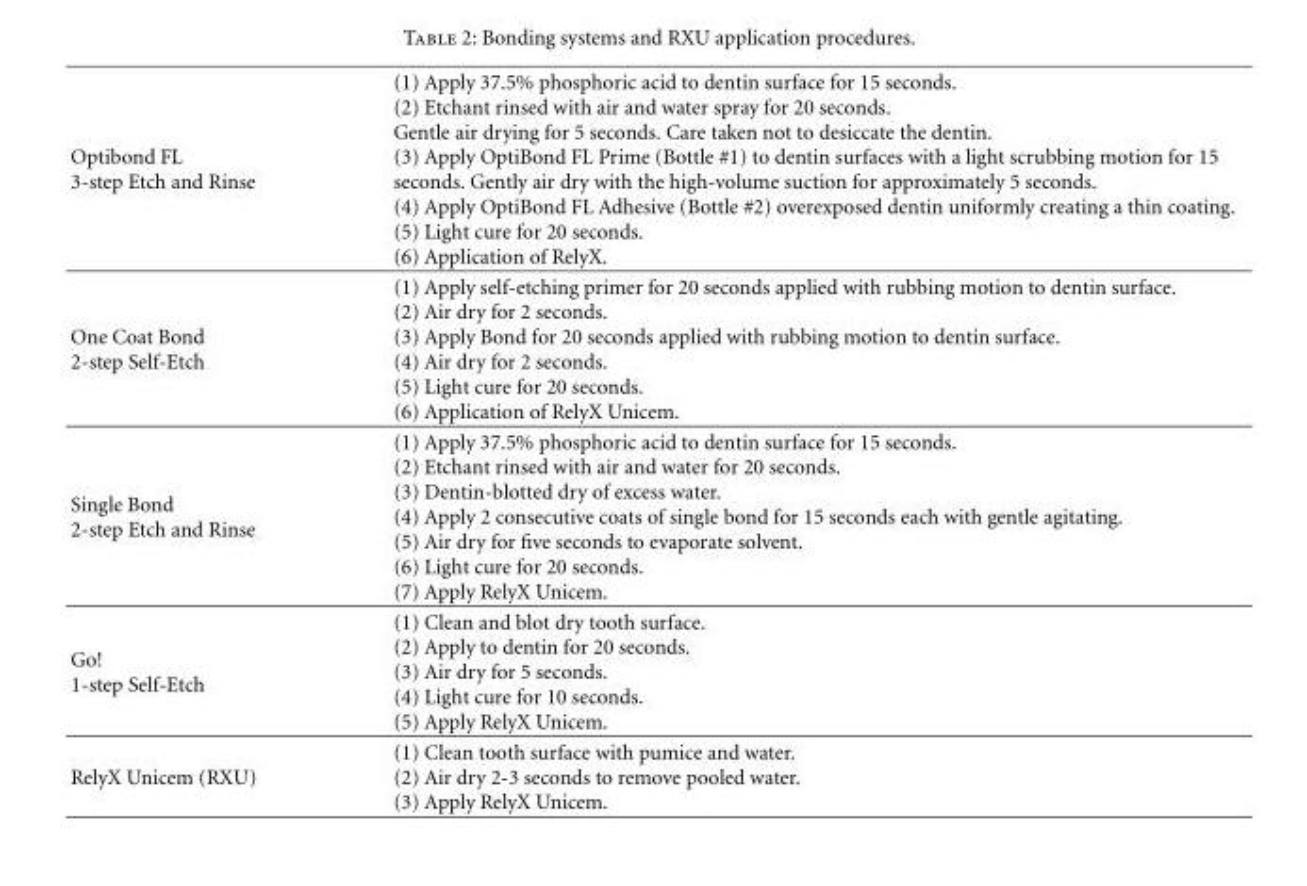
<table><tbody><tr><td>Optibond FL 3-step Etch and Rinse</td><td>(1) Apply 37.5% phosphoric acid to dentin surface for 15 seconds. (2) Etchant rinsed with air and water spray for 20 seconds. Gentle air drying for 5 seconds. Care taken not to desiccate the dentin. (3) Apply OptiBond FL Prime (Bottle #1) to dentin surfaces with a light scrubbing motion for 15 seconds. Gently air dry with the high-volume suction for approximately 5 seconds. (4) Apply OptiBond FL Adhesive (Bottle #2) overexposed dentin uniformly creating a thin coating. (5) Light cure for 20 seconds. (6) Application of RelyX.</td></tr><tr><td>One Coat Bond 2-step Self-Etch</td><td>(1) Apply self-etching primer for 20 seconds applied with rubbing motion to dentin surface. (2) Air dry for 2 seconds. (3) Apply Bond for 20 seconds applied with rubbing motion to dentin surface. (4) Air dry for 2 seconds. (5) Light cure for 20 seconds. (6) Application of RelyX Unicem.</td></tr><tr><td>Single Bond 2-step Etch and Rinse</td><td>(1) Apply 37.5% phosphoric acid to dentin surface for 15 seconds. (2) Etchant rinsed with air and water for 20 seconds. (3) Dentin-blotted dry of excess water. (4) Apply 2 consecutive coats of single bond for 15 seconds each with gentle agitating. (5) Air dry for five seconds to evaporate solvent. (6) Light cure for 20 seconds. (7) Apply RelyX Unicem.</td></tr><tr><td>Go! 1-step Self-Etch</td><td>(1) Clean and blot dry tooth surface. (2) Apply to dentin for 20 seconds. (3) Air dry for 5 seconds. (4) Light cure for 10 seconds. (5) Apply RelyX Unicem.</td></tr><tr><td>RelyX Unicem (RXU)</td><td>(1) Clean tooth surface with pumice and water. (2) Air dry 2-3 seconds to remove pooled water. (3) Apply RelyX Unicem.</td></tr></tbody></table>